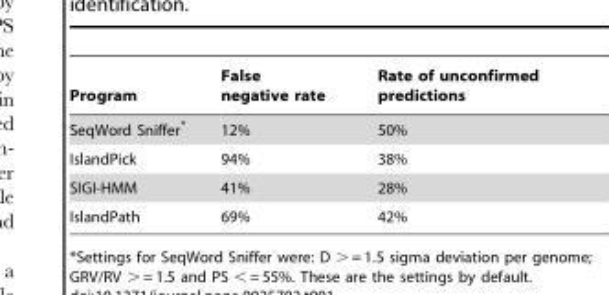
<table><thead><tr><td>Program</td><td>False negative rate</td><td>Rate of unconfirmed predictions</td></tr></thead><tbody><tr><td>SeqWord Sniffer*</td><td>12%</td><td>50%</td></tr><tr><td>IslandPick</td><td>94%</td><td>38%</td></tr><tr><td>SIGI-HMM</td><td>41%</td><td>28%</td></tr><tr><td>IslandPath</td><td>69%</td><td>42%</td></tr></tbody></table>